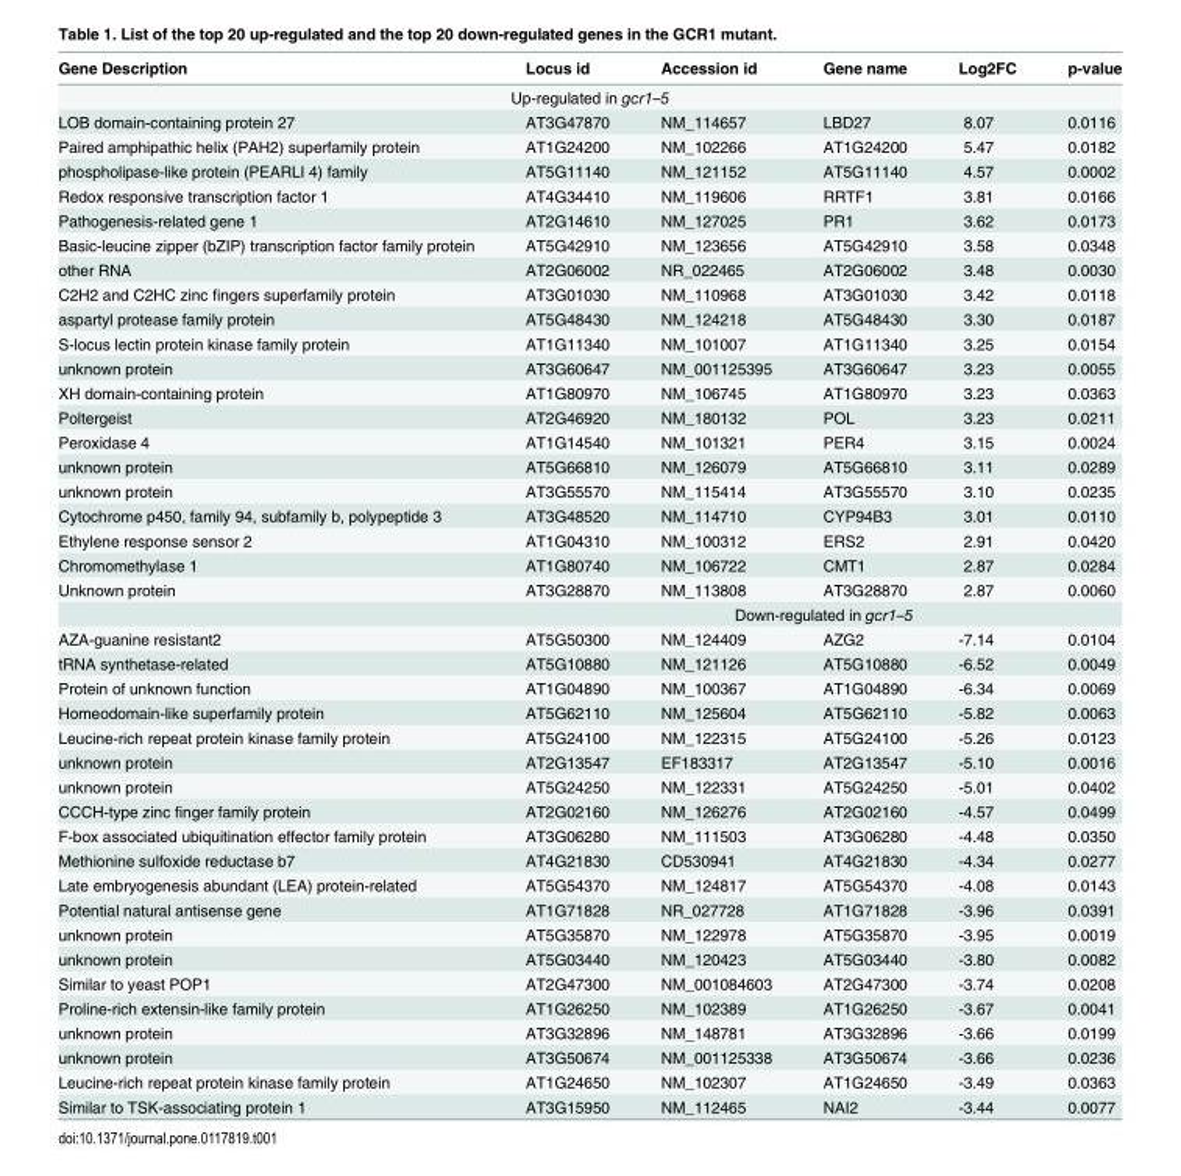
<table><thead><tr><td>Gene Description</td><td>Locus id</td><td>Accession id</td><td>Gene name</td><td>Log2FC</td><td>p-value</td></tr></thead><tbody><tr><td colspan="6">Up-regulated in gcr1–5</td></tr><tr><td>LOB domain-containing protein 27</td><td>AT3G47870</td><td>NM_114657</td><td>LBD27</td><td>8.07</td><td>0.0116</td></tr><tr><td>Paired amphipathic helix (PAH2) superfamily protein</td><td>AT1G24200</td><td>NM_102266</td><td>AT1G24200</td><td>5.47</td><td>0.0182</td></tr><tr><td>phospholipase-like protein (PEARLI 4) family</td><td>AT5G11140</td><td>NM_121152</td><td>AT5G11140</td><td>4.57</td><td>0.0002</td></tr><tr><td>Redox responsive transcription factor 1</td><td>AT4G34410</td><td>NM_119606</td><td>RRTF1</td><td>3.81</td><td>0.0166</td></tr><tr><td>Pathogenesis-related gene 1</td><td>AT2G14610</td><td>NM_127025</td><td>PR1</td><td>3.62</td><td>0.0173</td></tr><tr><td>Basic-leucine zipper (bZIP) transcription factor family protein</td><td>AT5G42910</td><td>NM_123656</td><td>AT5G42910</td><td>3.58</td><td>0.0348</td></tr><tr><td>other RNA</td><td>AT2G06002</td><td>NR_022465</td><td>AT2G06002</td><td>3.48</td><td>0.0030</td></tr><tr><td>C2H2 and C2HC zinc fingers superfamily protein</td><td>AT3G01030</td><td>NM_110968</td><td>AT3G01030</td><td>3.42</td><td>0.0118</td></tr><tr><td>aspartyl protease family protein</td><td>AT5G48430</td><td>NM_124218</td><td>AT5G48430</td><td>3.30</td><td>0.0187</td></tr><tr><td>S-locus lectin protein kinase family protein</td><td>AT1G11340</td><td>NM_101007</td><td>AT1G11340</td><td>3.25</td><td>0.0154</td></tr><tr><td>unknown protein</td><td>AT3G60647</td><td>NM_001125395</td><td>AT3G60647</td><td>3.23</td><td>0.0055</td></tr><tr><td>XH domain-containing protein</td><td>AT1G80970</td><td>NM_106745</td><td>AT1G80970</td><td>3.23</td><td>0.0363</td></tr><tr><td>Poltergeist</td><td>AT2G46920</td><td>NM_180132</td><td>POL</td><td>3.23</td><td>0.0211</td></tr><tr><td>Peroxidase 4</td><td>AT1G14540</td><td>NM_101321</td><td>PER4</td><td>3.15</td><td>0.0024</td></tr><tr><td>unknown protein</td><td>AT5G66810</td><td>NM_126079</td><td>AT5G66810</td><td>3.11</td><td>0.0289</td></tr><tr><td>unknown protein</td><td>AT3G55570</td><td>NM_115414</td><td>AT3G55570</td><td>3.10</td><td>0.0235</td></tr><tr><td>Cytochrome p450, family 94, subfamily b, polypeptide 3</td><td>AT3G48520</td><td>NM_114710</td><td>CYP94B3</td><td>3.01</td><td>0.0110</td></tr><tr><td>Ethylene response sensor 2</td><td>AT1G04310</td><td>NM_100312</td><td>ERS2</td><td>2.91</td><td>0.0420</td></tr><tr><td>Chromomethylase 1</td><td>AT1G80740</td><td>NM_106722</td><td>CMT1</td><td>2.87</td><td>0.0284</td></tr><tr><td rowspan="2">Unknown protein</td><td>AT3G28870</td><td>NM_113808</td><td>AT3G28870</td><td>2.87</td><td>0.0060</td></tr><tr><td colspan="5">Down-regulated in gcr1–5</td></tr><tr><td>AZA-guanine resistant2</td><td>AT5G50300</td><td>NM_124409</td><td>AZG2</td><td>-7.14</td><td>0.0104</td></tr><tr><td>tRNA synthetase-related</td><td>AT5G10880</td><td>NM_121126</td><td>AT5G10880</td><td>-6.52</td><td>0.0049</td></tr><tr><td>Protein of unknown function</td><td>AT1G04890</td><td>NM_100367</td><td>AT1G04890</td><td>-6.34</td><td>0.0069</td></tr><tr><td>Homeodomain-like superfamily protein</td><td>AT5G62110</td><td>NM_125604</td><td>AT5G62110</td><td>-5.82</td><td>0.0063</td></tr><tr><td>Leucine-rich repeat protein kinase family protein</td><td>AT5G24100</td><td>NM_122315</td><td>AT5G24100</td><td>-5.26</td><td>0.0123</td></tr><tr><td>unknown protein</td><td>AT2G13547</td><td>EF183317</td><td>AT2G13547</td><td>-5.10</td><td>0.0016</td></tr><tr><td>unknown protein</td><td>AT5G24250</td><td>NM_122331</td><td>AT5G24250</td><td>-5.01</td><td>0.0402</td></tr><tr><td>CCCH-type zinc finger family protein</td><td>AT2G02160</td><td>NM_126276</td><td>AT2G02160</td><td>-4.57</td><td>0.0499</td></tr><tr><td>F-box associated ubiquitination effector family protein</td><td>AT3G06280</td><td>NM_111503</td><td>AT3G06280</td><td>-4.48</td><td>0.0350</td></tr><tr><td>Methionine sulfoxide reductase b7</td><td>AT4G21830</td><td>CD530941</td><td>AT4G21830</td><td>-4.34</td><td>0.0277</td></tr><tr><td>Late embryogenesis abundant (LEA) protein-related</td><td>AT5G54370</td><td>NM_124817</td><td>AT5G54370</td><td>-4.08</td><td>0.0143</td></tr><tr><td>Potential natural antisense gene</td><td>AT1G71828</td><td>NR_027728</td><td>AT1G71828</td><td>-3.96</td><td>0.0391</td></tr><tr><td>unknown protein</td><td>AT5G35870</td><td>NM_122978</td><td>AT5G35870</td><td>-3.95</td><td>0.0019</td></tr><tr><td>unknown protein</td><td>AT5G03440</td><td>NM_120423</td><td>AT5G03440</td><td>-3.80</td><td>0.0082</td></tr><tr><td>Similar to yeast POP1</td><td>AT2G47300</td><td>NM_001084603</td><td>AT2G47300</td><td>-3.74</td><td>0.0208</td></tr><tr><td>Proline-rich extensin-like family protein</td><td>AT1G26250</td><td>NM_102389</td><td>AT1G26250</td><td>-3.67</td><td>0.0041</td></tr><tr><td>unknown protein</td><td>AT3G32896</td><td>NM_148781</td><td>AT3G32896</td><td>-3.66</td><td>0.0199</td></tr><tr><td>unknown protein</td><td>AT3G50674</td><td>NM_001125338</td><td>AT3G50674</td><td>-3.66</td><td>0.0236</td></tr><tr><td>Leucine-rich repeat protein kinase family protein</td><td>AT1G24650</td><td>NM_102307</td><td>AT1G24650</td><td>-3.49</td><td>0.0363</td></tr><tr><td>Similar to TSK-associating protein 1</td><td>AT3G15950</td><td>NM_112465</td><td>NAI2</td><td>-3.44</td><td>0.0077</td></tr></tbody></table>